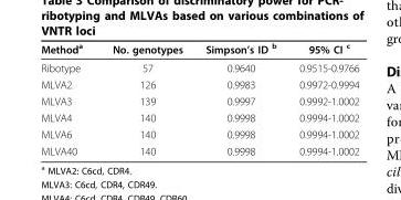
<table><thead><tr><td>Method<sup>a</sup></td><td>No. genotypes</td><td>Simpson’s ID <sup>b</sup></td><td>95% CI <sup>c</sup></td></tr></thead><tbody><tr><td>Ribotype</td><td>57</td><td>0.9640</td><td>0.9515-0.9766</td></tr><tr><td>MLVA2</td><td>126</td><td>0.9983</td><td>0.9972-0.9994</td></tr><tr><td>MLVA3</td><td>139</td><td>0.9997</td><td>0.9992-1.0002</td></tr><tr><td>MLVA4</td><td>140</td><td>0.9998</td><td>0.9994-1.0002</td></tr><tr><td>MLVA6</td><td>140</td><td>0.9998</td><td>0.9994-1.0002</td></tr><tr><td>MLVA40</td><td>140</td><td>0.9998</td><td>0.9994-1.0002</td></tr></tbody></table>